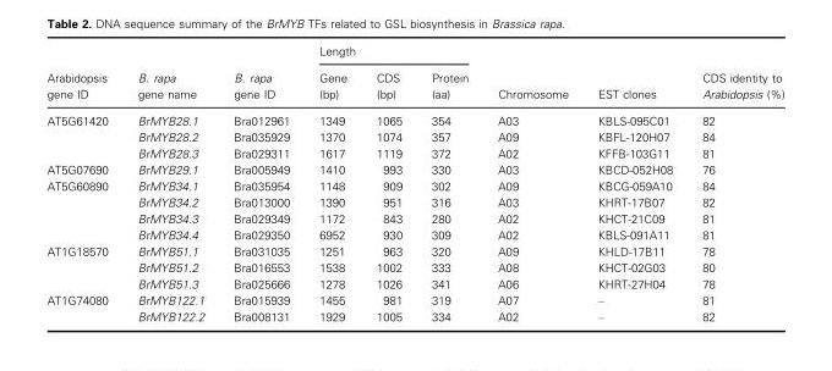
<table><thead><tr><td rowspan="2">Arabidopsis gene ID</td><td rowspan="2">B. rapa gene name</td><td rowspan="2">B. rapa gene ID</td><td colspan="3">Length</td><td rowspan="2">Chromosome</td><td rowspan="2">EST clones</td><td rowspan="2">CDS identity to Arabidopsis (%)</td></tr><tr><td>Gene (bp)</td><td>CDS (bp)</td><td>Protein (aa)</td></tr></thead><tbody><tr><td rowspan="3">AT5G61420</td><td>BrMYB28.1</td><td>Bra012961</td><td>1349</td><td>1065</td><td>354</td><td>A03</td><td>KBLS-095C01</td><td>82</td></tr><tr><td>BrMYB28.2</td><td>Bra035929</td><td>1370</td><td>1074</td><td>357</td><td>A09</td><td>KBFL-120H07</td><td>84</td></tr><tr><td>BrMYB28.3</td><td>Bra029311</td><td>1617</td><td>1119</td><td>372</td><td>A02</td><td>KFFB-103G11</td><td>81</td></tr><tr><td>AT5G07690</td><td>BrMYB29.1</td><td>Bra005949</td><td>1410</td><td>993</td><td>330</td><td>A03</td><td>KBCD-052H08</td><td>76</td></tr><tr><td rowspan="4">AT5G60890</td><td>BrMYB34.1</td><td>Bra035954</td><td>1148</td><td>909</td><td>302</td><td>A09</td><td>KBCG-059A10</td><td>84</td></tr><tr><td>BrMYB34.2</td><td>Bra013000</td><td>1390</td><td>951</td><td>316</td><td>A03</td><td>KHRT-17B07</td><td>82</td></tr><tr><td>BrMYB34.3</td><td>Bra029349</td><td>1172</td><td>843</td><td>280</td><td>A02</td><td>KHCT-21C09</td><td>81</td></tr><tr><td>BrMYB34.4</td><td>Bra029350</td><td>6952</td><td>930</td><td>309</td><td>A02</td><td>KBLS-091A11</td><td>81</td></tr><tr><td rowspan="3">AT1G18570</td><td>BrMYB51.1</td><td>Bra031035</td><td>1251</td><td>963</td><td>320</td><td>A09</td><td>KHLD-17B11</td><td>78</td></tr><tr><td>BrMYB51.2</td><td>Bra016553</td><td>1538</td><td>1002</td><td>333</td><td>A08</td><td>KHCT-02G03</td><td>80</td></tr><tr><td>BrMYB51.3</td><td>Bra025666</td><td>1278</td><td>1026</td><td>341</td><td>A06</td><td>KHRT-27H04</td><td>78</td></tr><tr><td rowspan="2">AT1G74080</td><td>BrMYB122.1</td><td>Bra015939</td><td>1455</td><td>981</td><td>319</td><td>A07</td><td>–</td><td>81</td></tr><tr><td>BrMYB122.2</td><td>Bra008131</td><td>1929</td><td>1005</td><td>334</td><td>A02</td><td>–</td><td>82</td></tr></tbody></table>